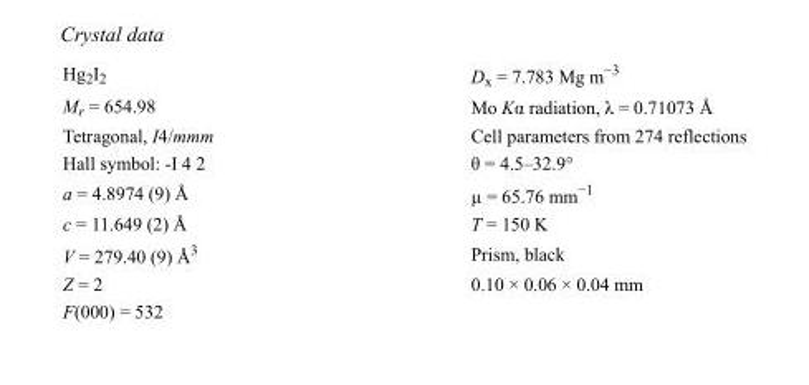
<table><tbody><tr><td>Hg<sub>2</sub>I<sub>2</sub></td><td>D<sub>x</sub> = 7.783 Mg m<sup>−3</sup></td></tr><tr><td>M<sub>r</sub> = 654.98</td><td>Mo Kα radiation, λ = 0.71073 Å</td></tr><tr><td>Tetragonal, I4/mmm</td><td>Cell parameters from 274 reflections</td></tr><tr><td>Hall symbol: -I 4 2</td><td>θ = 4.5–32.9°</td></tr><tr><td>a = 4.8974 (9) Å</td><td>µ = 65.76 mm<sup>−1</sup></td></tr><tr><td>c = 11.649 (2) Å</td><td>T = 150 K</td></tr><tr><td>V = 279.40 (9) Å<sup>3</sup></td><td>Prism, black</td></tr><tr><td>Z = 2</td><td>0.10 × 0.06 × 0.04 mm</td></tr><tr><td>F(000) = 532</td><td></td></tr></tbody></table>